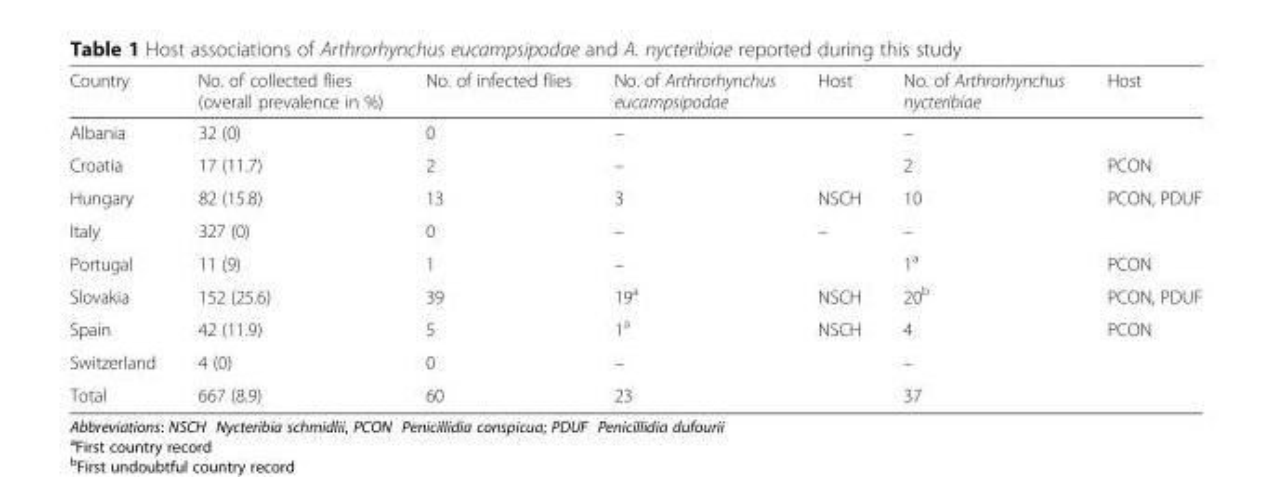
<table><thead><tr><td>Country</td><td>No. of collected flies (overall prevalence in %)</td><td>No. of infected flies</td><td>No. of Arthrorhynchus eucampsipodae</td><td>Host</td><td>No. of Arthrorhynchus nycteribiae</td><td>Host</td></tr></thead><tbody><tr><td>Albania</td><td>32 (0)</td><td>0</td><td>–</td><td></td><td>–</td><td></td></tr><tr><td>Croatia</td><td>17 (11.7)</td><td>2</td><td>–</td><td></td><td>2</td><td>PCON</td></tr><tr><td>Hungary</td><td>82 (15.8)</td><td>13</td><td>3</td><td>NSCH</td><td>10</td><td>PCON, PDUF</td></tr><tr><td>Italy</td><td>327 (0)</td><td>0</td><td>–</td><td>–</td><td>–</td><td></td></tr><tr><td>Portugal</td><td>11 (9)</td><td>1</td><td>–</td><td></td><td>1<sup>a</sup></td><td>PCON</td></tr><tr><td>Slovakia</td><td>152 (25.6)</td><td>39</td><td>19<sup>a</sup></td><td>NSCH</td><td>20<sup>b</sup></td><td>PCON, PDUF</td></tr><tr><td>Spain</td><td>42 (11.9)</td><td>5</td><td>1<sup>a</sup></td><td>NSCH</td><td>4</td><td>PCON</td></tr><tr><td>Switzerland</td><td>4 (0)</td><td>0</td><td>–</td><td></td><td>–</td><td></td></tr><tr><td>Total</td><td>667 (8.9)</td><td>60</td><td>23</td><td></td><td>37</td><td></td></tr></tbody></table>